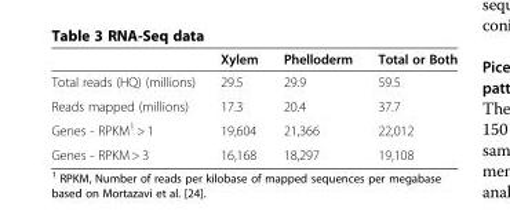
<table><thead><tr><td></td><td>Xylem</td><td>Phelloderm</td><td>Total or Both</td></tr></thead><tbody><tr><td>Total reads (HQ) (millions)</td><td>29.5</td><td>29.9</td><td>59.5</td></tr><tr><td>Reads mapped (millions)</td><td>17.3</td><td>20.4</td><td>37.7</td></tr><tr><td>Genes - RPKM<sup>1</sup> &gt; 1</td><td>19,604</td><td>21,366</td><td>22,012</td></tr><tr><td>Genes - RPKM &gt; 3</td><td>16,168</td><td>18,297</td><td>19,108</td></tr></tbody></table>